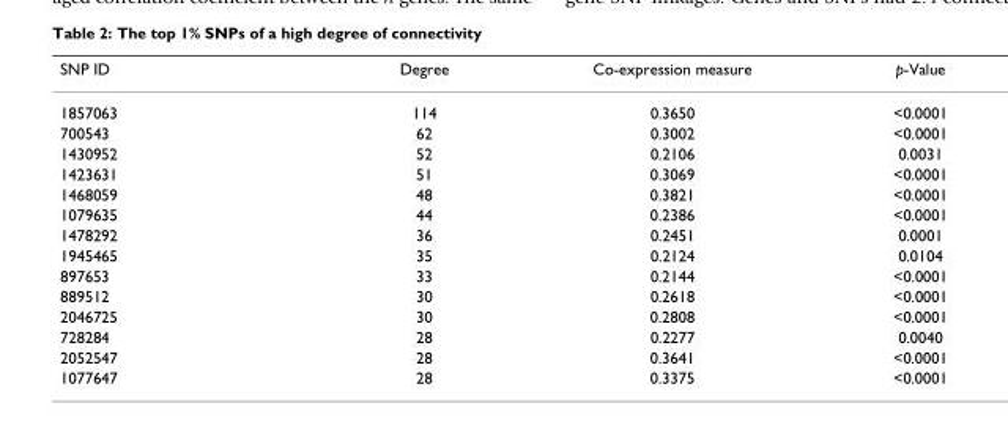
<table><thead><tr><td>SNP ID</td><td>Degree</td><td>Co-expression measure</td><td>p-Value</td></tr></thead><tbody><tr><td>1857063</td><td>114</td><td>0.3650</td><td>&lt;0.0001</td></tr><tr><td>700543</td><td>62</td><td>0.3002</td><td>&lt;0.0001</td></tr><tr><td>1430952</td><td>52</td><td>0.2106</td><td>0.0031</td></tr><tr><td>1423631</td><td>51</td><td>0.3069</td><td>&lt;0.0001</td></tr><tr><td>1468059</td><td>48</td><td>0.3821</td><td>&lt;0.0001</td></tr><tr><td>1079635</td><td>44</td><td>0.2386</td><td>&lt;0.0001</td></tr><tr><td>1478292</td><td>36</td><td>0.2451</td><td>0.0001</td></tr><tr><td>1945465</td><td>35</td><td>0.2124</td><td>0.0104</td></tr><tr><td>897653</td><td>33</td><td>0.2144</td><td>&lt;0.0001</td></tr><tr><td>889512</td><td>30</td><td>0.2618</td><td>&lt;0.0001</td></tr><tr><td>2046725</td><td>30</td><td>0.2808</td><td>&lt;0.0001</td></tr><tr><td>728284</td><td>28</td><td>0.2277</td><td>0.0040</td></tr><tr><td>2052547</td><td>28</td><td>0.3641</td><td>&lt;0.0001</td></tr><tr><td>1077647</td><td>28</td><td>0.3375</td><td>&lt;0.0001</td></tr></tbody></table>